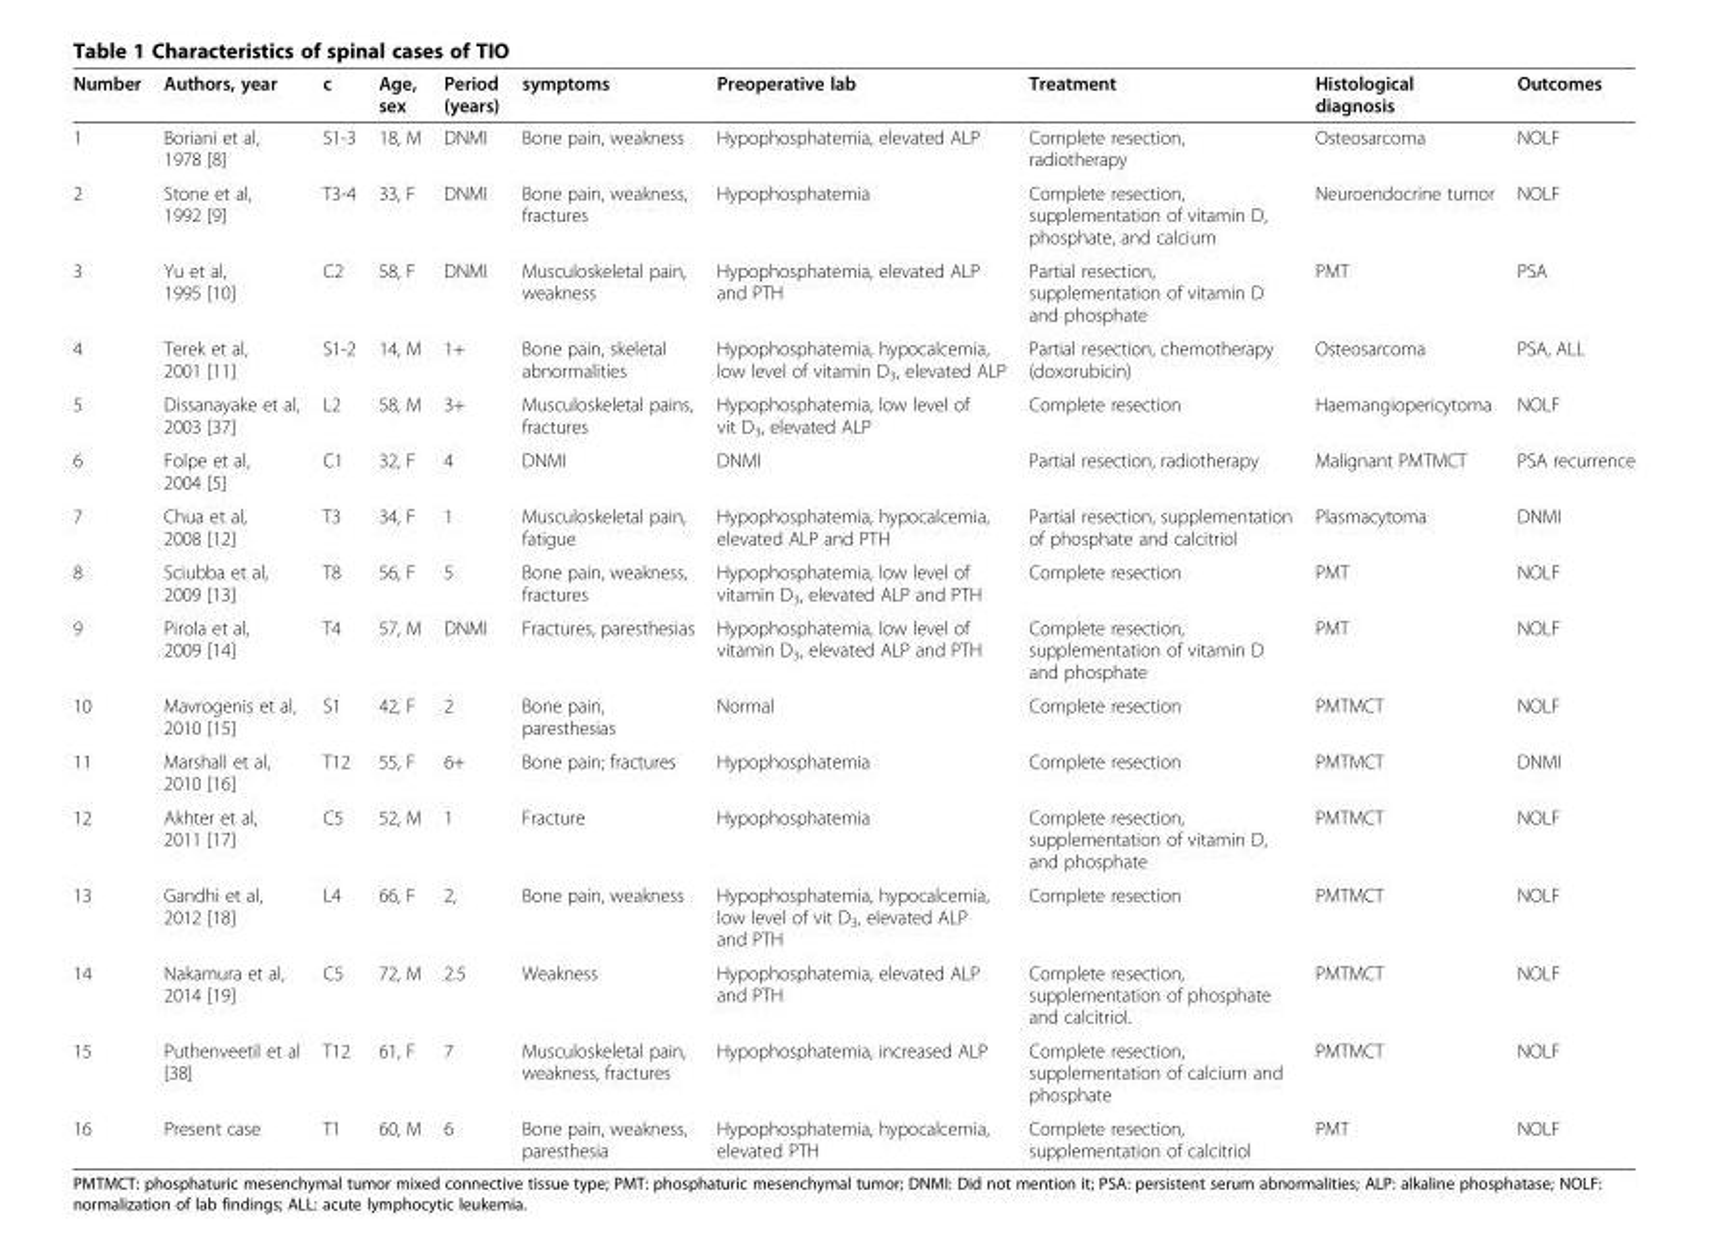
<table><thead><tr><td>Number</td><td>Authors, year</td><td>c</td><td>Age, sex</td><td>Period (years)</td><td>symptoms</td><td>Preoperative lab</td><td>Treatment</td><td>Histological diagnosis</td><td>Outcomes</td></tr></thead><tbody><tr><td>1</td><td>Boriani et al, 1978 [8]</td><td>S1-3</td><td>18, M</td><td>DNMI</td><td>Bone pain, weakness</td><td>Hypophosphatemia, elevated ALP</td><td>Complete resection, radiotherapy</td><td>Osteosarcoma</td><td>NOLF</td></tr><tr><td>2</td><td>Stone et al, 1992 [9]</td><td>T3-4</td><td>33, F</td><td>DNMI</td><td>Bone pain, weakness, fractures</td><td>Hypophosphatemia</td><td>Complete resection, supplementation of vitamin D, phosphate, and calcium</td><td>Neuroendocrine tumor</td><td>NOLF</td></tr><tr><td>3</td><td>Yu et al, 1995 [10]</td><td>C2</td><td>58, F</td><td>DNMI</td><td>Musculoskeletal pain, weakness</td><td>Hypophosphatemia, elevated ALP and PTH</td><td>Partial resection, supplementation of vitamin D and phosphate</td><td>PMT</td><td>PSA</td></tr><tr><td>4</td><td>Terek et al, 2001 [11]</td><td>S1-2</td><td>14, M</td><td>1+</td><td>Bone pain, skeletal abnormalities</td><td>Hypophosphatemia, hypocalcemia, low level of vitamin D<sub>3</sub>, elevated ALP</td><td>Partial resection, chemotherapy (doxorubicin)</td><td>Osteosarcoma</td><td>PSA, ALL</td></tr><tr><td>5</td><td>Dissanayake et al, 2003 [37]</td><td>L2</td><td>58, M</td><td>3+</td><td>Musculoskeletal pains, fractures</td><td>Hypophosphatemia, low level of vit D<sub>3</sub>, elevated ALP</td><td>Complete resection</td><td>Haemangiopericytoma</td><td>NOLF</td></tr><tr><td>6</td><td>Folpe et al, 2004 [5]</td><td>C1</td><td>32, F</td><td>4</td><td>DNMI</td><td>DNMI</td><td>Partial resection, radiotherapy</td><td>Malignant PMTMCT</td><td>PSA recurrence</td></tr><tr><td>7</td><td>Chua et al, 2008 [12]</td><td>T3</td><td>34, F</td><td>1</td><td>Musculoskeletal pain, fatigue</td><td>Hypophosphatemia, hypocalcemia, elevated ALP and PTH</td><td>Partial resection, supplementation of phosphate and calcitriol</td><td>Plasmacytoma</td><td>DNMI</td></tr><tr><td>8</td><td>Sciubba et al, 2009 [13]</td><td>T8</td><td>56, F</td><td>5</td><td>Bone pain, weakness, fractures</td><td>Hypophosphatemia, low level of vitamin D<sub>3</sub>, elevated ALP and PTH</td><td>Complete resection</td><td>PMT</td><td>NOLF</td></tr><tr><td>9</td><td>Pirola et al, 2009 [14]</td><td>T4</td><td>57, M</td><td>DNMI</td><td>Fractures, paresthesias</td><td>Hypophosphatemia, low level of vitamin D<sub>3</sub>, elevated ALP and PTH</td><td>Complete resection, supplementation of vitamin D and phosphate</td><td>PMT</td><td>NOLF</td></tr><tr><td>10</td><td>Mavrogenis et al, 2010 [15]</td><td>S1</td><td>42, F</td><td>2</td><td>Bone pain, paresthesias</td><td>Normal</td><td>Complete resection</td><td>PMTMCT</td><td>NOLF</td></tr><tr><td>11</td><td>Marshall et al, 2010 [16]</td><td>T12</td><td>55, F</td><td>6+</td><td>Bone pain; fractures</td><td>Hypophosphatemia</td><td>Complete resection</td><td>PMTMCT</td><td>DNMI</td></tr><tr><td>12</td><td>Akhter et al, 2011 [17]</td><td>C5</td><td>52, M</td><td>1</td><td>Fracture</td><td>Hypophosphatemia</td><td>Complete resection, supplementation of vitamin D, and phosphate</td><td>PMTMCT</td><td>NOLF</td></tr><tr><td>13</td><td>Gandhi et al, 2012 [18]</td><td>L4</td><td>66, F</td><td>2,</td><td>Bone pain, weakness</td><td>Hypophosphatemia, hypocalcemia, low level of vit D<sub>3</sub>, elevated ALP and PTH</td><td>Complete resection</td><td>PMTMCT</td><td>NOLF</td></tr><tr><td>14</td><td>Nakamura et al, 2014 [19]</td><td>C5</td><td>72, M</td><td>2.5</td><td>Weakness</td><td>Hypophosphatemia, elevated ALP and PTH</td><td>Complete resection, supplementation of phosphate and calcitriol.</td><td>PMTMCT</td><td>NOLF</td></tr><tr><td>15</td><td>Puthenveetil et al [38]</td><td>T12</td><td>61, F</td><td>7</td><td>Musculoskeletal pain, weakness, fractures</td><td>Hypophosphatemia, increased ALP</td><td>Complete resection, supplementation of calcium and phosphate</td><td>PMTMCT</td><td>NOLF</td></tr><tr><td>16</td><td>Present case</td><td>T1</td><td>60, M</td><td>6</td><td>Bone pain, weakness, paresthesia</td><td>Hypophosphatemia, hypocalcemia, elevated PTH</td><td>Complete resection, supplementation of calcitriol</td><td>PMT</td><td>NOLF</td></tr></tbody></table>